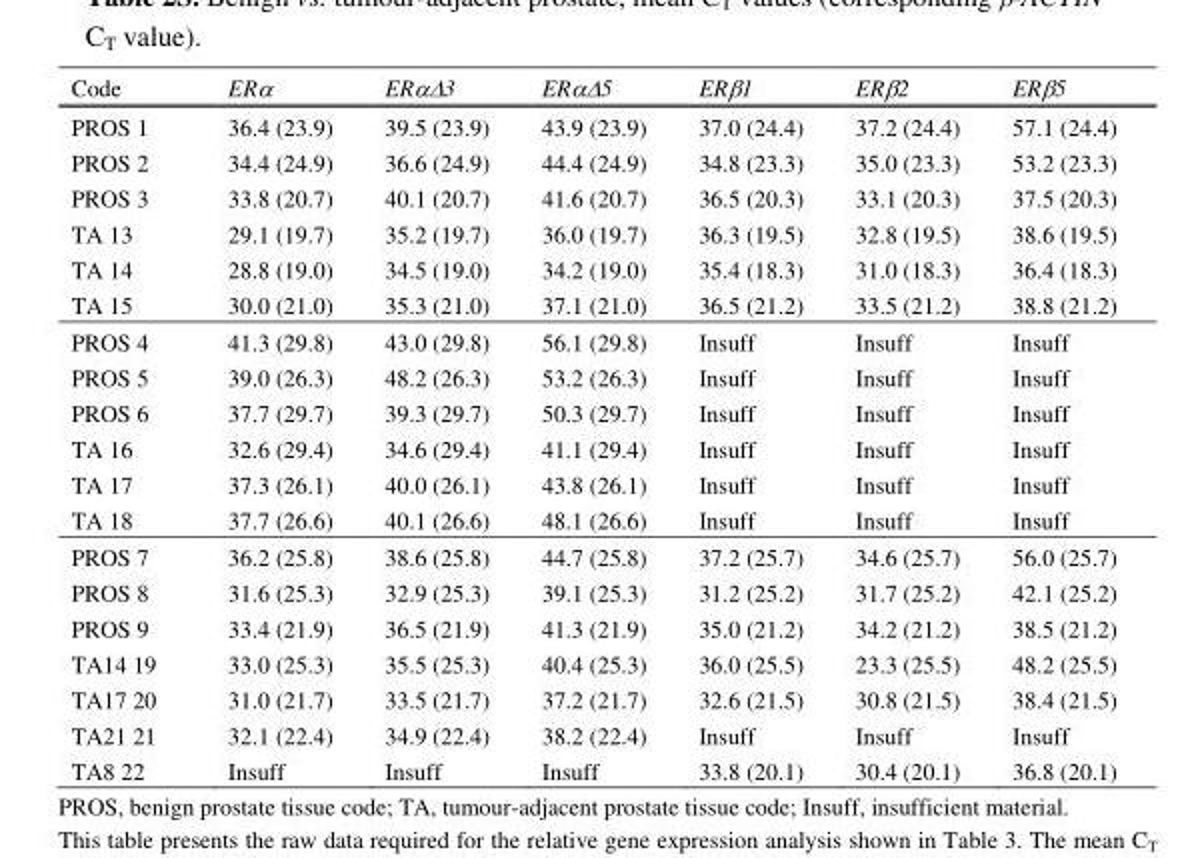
<table><thead><tr><td>Code</td><td>ERα</td><td>ERαΔ3</td><td>ERαΔ5</td><td>ERβ1</td><td>ERβ2</td><td>ERβ5</td></tr></thead><tbody><tr><td>PROS 1</td><td>36.4 (23.9)</td><td>39.5 (23.9)</td><td>43.9 (23.9)</td><td>37.0 (24.4)</td><td>37.2 (24.4)</td><td>57.1 (24.4)</td></tr><tr><td>PROS 2</td><td>34.4 (24.9)</td><td>36.6 (24.9)</td><td>44.4 (24.9)</td><td>34.8 (23.3)</td><td>35.0 (23.3)</td><td>53.2 (23.3)</td></tr><tr><td>PROS 3</td><td>33.8 (20.7)</td><td>40.1 (20.7)</td><td>41.6 (20.7)</td><td>36.5 (20.3)</td><td>33.1 (20.3)</td><td>37.5 (20.3)</td></tr><tr><td>TA 13</td><td>29.1 (19.7)</td><td>35.2 (19.7)</td><td>36.0 (19.7)</td><td>36.3 (19.5)</td><td>32.8 (19.5)</td><td>38.6 (19.5)</td></tr><tr><td>TA 14</td><td>28.8 (19.0)</td><td>34.5 (19.0)</td><td>34.2 (19.0)</td><td>35.4 (18.3)</td><td>31.0 (18.3)</td><td>36.4 (18.3)</td></tr><tr><td>TA 15</td><td>30.0 (21.0)</td><td>35.3 (21.0)</td><td>37.1 (21.0)</td><td>36.5 (21.2)</td><td>33.5 (21.2)</td><td>38.8 (21.2)</td></tr><tr><td>PROS 4</td><td>41.3 (29.8)</td><td>43.0 (29.8)</td><td>56.1 (29.8)</td><td>Insuff</td><td>Insuff</td><td>Insuff</td></tr><tr><td>PROS 5</td><td>39.0 (26.3)</td><td>48.2 (26.3)</td><td>53.2 (26.3)</td><td>Insuff</td><td>Insuff</td><td>Insuff</td></tr><tr><td>PROS 6</td><td>37.7 (29.7)</td><td>39.3 (29.7)</td><td>50.3 (29.7)</td><td>Insuff</td><td>Insuff</td><td>Insuff</td></tr><tr><td>TA 16</td><td>32.6 (29.4)</td><td>34.6 (29.4)</td><td>41.1 (29.4)</td><td>Insuff</td><td>Insuff</td><td>Insuff</td></tr><tr><td>TA 17</td><td>37.3 (26.1)</td><td>40.0 (26.1)</td><td>43.8 (26.1)</td><td>Insuff</td><td>Insuff</td><td>Insuff</td></tr><tr><td>TA 18</td><td>37.7 (26.6)</td><td>40.1 (26.6)</td><td>48.1 (26.6)</td><td>Insuff</td><td>Insuff</td><td>Insuff</td></tr><tr><td>PROS 7</td><td>36.2 (25.8)</td><td>38.6 (25.8)</td><td>44.7 (25.8)</td><td>37.2 (25.7)</td><td>34.6 (25.7)</td><td>56.0 (25.7)</td></tr><tr><td>PROS 8</td><td>31.6 (25.3)</td><td>32.9 (25.3)</td><td>39.1 (25.3)</td><td>31.2 (25.2)</td><td>31.7 (25.2)</td><td>42.1 (25.2)</td></tr><tr><td>PROS 9</td><td>33.4 (21.9)</td><td>36.5 (21.9)</td><td>41.3 (21.9)</td><td>35.0 (21.2)</td><td>34.2 (21.2)</td><td>38.5 (21.2)</td></tr><tr><td>TA14 19</td><td>33.0 (25.3)</td><td>35.5 (25.3)</td><td>40.4 (25.3)</td><td>36.0 (25.5)</td><td>23.3 (25.5)</td><td>48.2 (25.5)</td></tr><tr><td>TA17 20</td><td>31.0 (21.7)</td><td>33.5 (21.7)</td><td>37.2 (21.7)</td><td>32.6 (21.5)</td><td>30.8 (21.5)</td><td>38.4 (21.5)</td></tr><tr><td>TA21 21</td><td>32.1 (22.4)</td><td>34.9 (22.4)</td><td>38.2 (22.4)</td><td>Insuff</td><td>Insuff</td><td>Insuff</td></tr><tr><td>TA8 22</td><td>Insuff</td><td>Insuff</td><td>Insuff</td><td>33.8 (20.1)</td><td>30.4 (20.1)</td><td>36.8 (20.1)</td></tr></tbody></table>